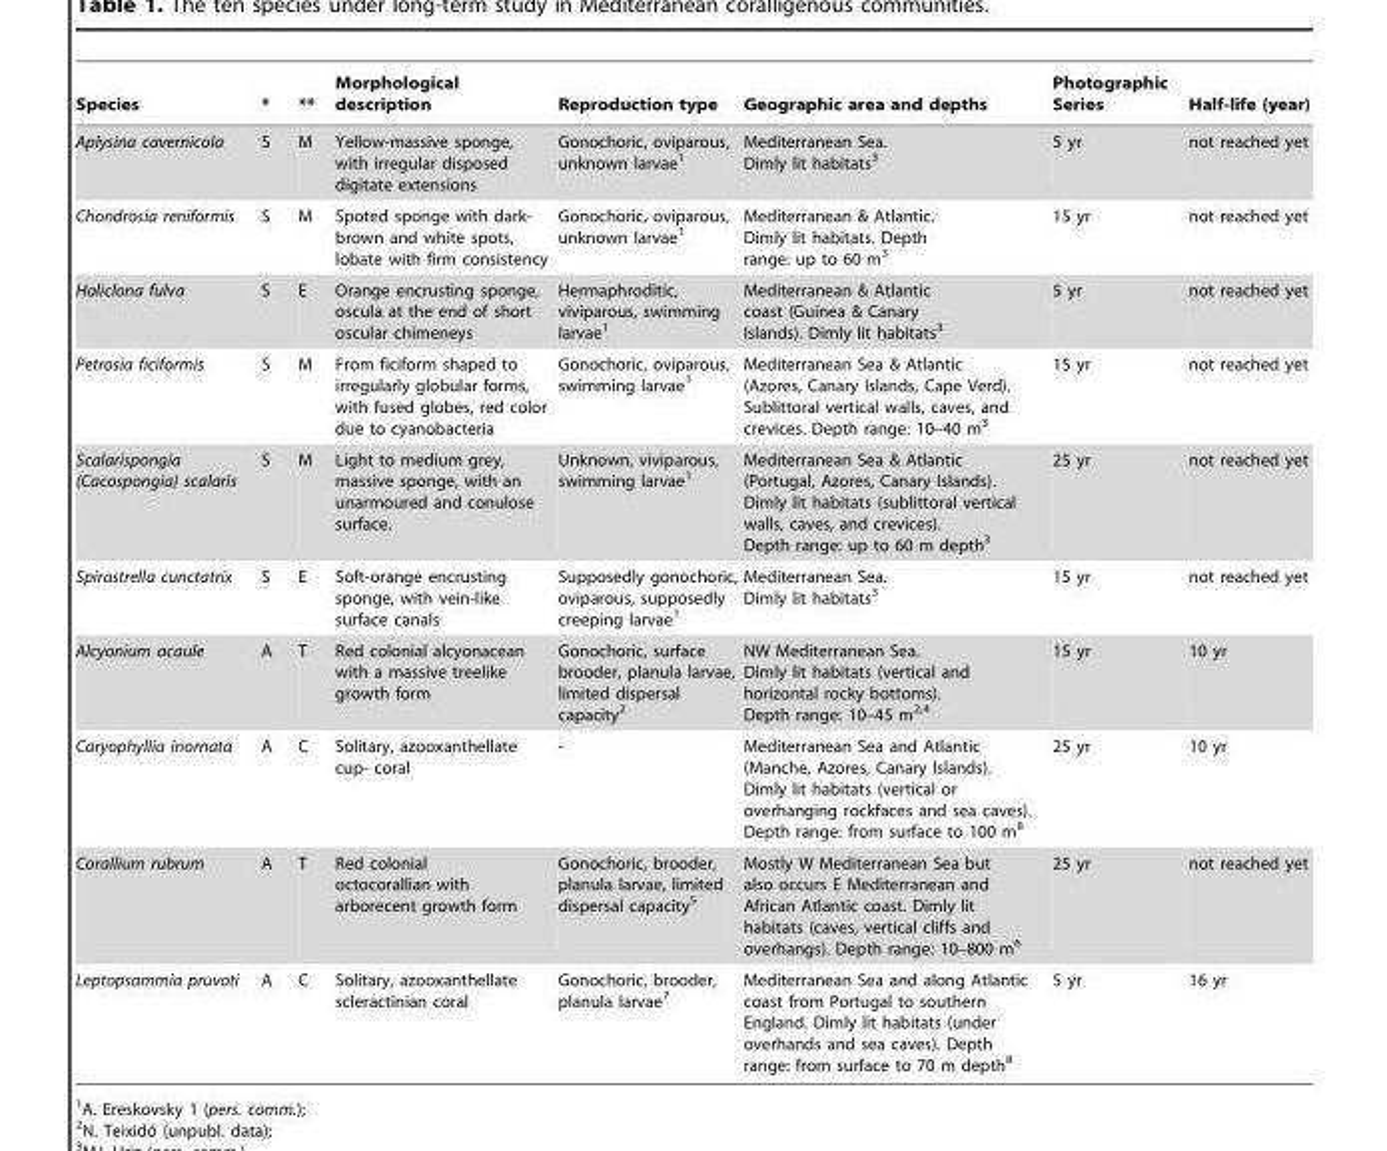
<table><thead><tr><td>Species</td><td>*</td><td>**</td><td>Morphological description</td><td>Reproduction type</td><td>Geographic area and depths</td><td>Photographic Series</td><td>Half-life (year)</td></tr></thead><tbody><tr><td>Aplysina cavernicola</td><td>S</td><td>M</td><td>Yellow-massive sponge, with irregular disposed digitate extensions</td><td>Gonochoric, oviparous, unknown larvae<sup>1</sup></td><td>Mediterranean Sea. Dimly lit habitats<sup>3</sup></td><td>5 yr</td><td>not reached yet</td></tr><tr><td>Chondrosia reniformis</td><td>S</td><td>M</td><td>Spoted sponge with dark- brown and white spots, lobate with firm consistency</td><td>Gonochoric, oviparous, unknown larvae<sup>1</sup></td><td>Mediterranean &amp; Atlantic. Dimly lit habitats. Depth range: up to 60 m<sup>3</sup></td><td>15 yr</td><td>not reached yet</td></tr><tr><td>Haliclona fulva</td><td>S</td><td>E</td><td>Orange encrusting sponge, oscula at the end of short oscular chimeneys</td><td>Hermaphroditic, viviparous, swimming larvae<sup>1</sup></td><td>Mediterranean &amp; Atlantic coast (Guinea &amp; Canary Islands). Dimly lit habitats<sup>3</sup></td><td>5 yr</td><td>not reached yet</td></tr><tr><td>Petrosia ficiformis</td><td>S</td><td>M</td><td>From ficiform shaped to irregularly globular forms, with fused globes, red color due to cyanobacteria</td><td>Gonochoric, oviparous, swimming larvae<sup>1</sup></td><td>Mediterranean Sea &amp; Atlantic (Azores, Canary Islands, Cape Verd). Sublittoral vertical walls, caves, and crevices. Depth range: 10–40 m<sup>3</sup></td><td>15 yr</td><td>not reached yet</td></tr><tr><td>Scalarispongia (Cacospongia) scalaris</td><td>S</td><td>M</td><td>Light to medium grey, massive sponge, with an unarmoured and conulose surface.</td><td>Unknown, viviparous, swimming larvae<sup>1</sup></td><td>Mediterranean Sea &amp; Atlantic (Portugal, Azores, Canary Islands). Dimly lit habitats (sublittoral vertical walls, caves, and crevices). Depth range: up to 60 m depth<sup>3</sup></td><td>25 yr</td><td>not reached yet</td></tr><tr><td>Spirastrella cunctatrix</td><td>S</td><td>E</td><td>Soft-orange encrusting sponge, with vein-like surface canals</td><td>Supposedly gonochoric, oviparous, supposedly creeping larvae<sup>1</sup></td><td>Mediterranean Sea. Dimly lit habitats<sup>3</sup></td><td>15 yr</td><td>not reached yet</td></tr><tr><td>Alcyonium acaule</td><td>A</td><td>T</td><td>Red colonial alcyonacean with a massive treelike growth form</td><td>Gonochoric, surface brooder, planula larvae, limited dispersal capacity<sup>2</sup></td><td>NW Mediterranean Sea. Dimly lit habitats (vertical and horizontal rocky bottoms). Depth range: 10–45 m<sup>2,</sup>4</td><td>15 yr</td><td>10 yr</td></tr><tr><td>Caryophyllia inornata</td><td>A</td><td>C</td><td>Solitary, azooxanthellate cup- coral</td><td>-</td><td>Mediterranean Sea and Atlantic (Manche, Azores, Canary Islands). Dimly lit habitats (vertical or overhanging rockfaces and sea caves). Depth range: from surface to 100 m<sup>8</sup></td><td>25 yr</td><td>10 yr</td></tr><tr><td>Corallium rubrum</td><td>A</td><td>T</td><td>Red colonial octocorallian with arborecent growth form</td><td>Gonochoric, brooder, planula larvae, limited dispersal capacity<sup>5</sup></td><td>Mostly W Mediterranean Sea but also occurs E Mediterranean and African Atlantic coast. Dimly lit habitats (caves, vertical cliffs and overhangs). Depth range: 10–800 m<sup>6</sup></td><td>25 yr</td><td>not reached yet</td></tr><tr><td>Leptopsammia pruvoti</td><td>A</td><td>C</td><td>Solitary, azooxanthellate scleractinian coral</td><td>Gonochoric, brooder, planula larvae<sup>7</sup></td><td>Mediterranean Sea and along Atlantic coast from Portugal to southern England. Dimly lit habitats (under overhands and sea caves). Depth range: from surface to 70 m depth<sup>8</sup></td><td>5 yr</td><td>16 yr</td></tr></tbody></table>